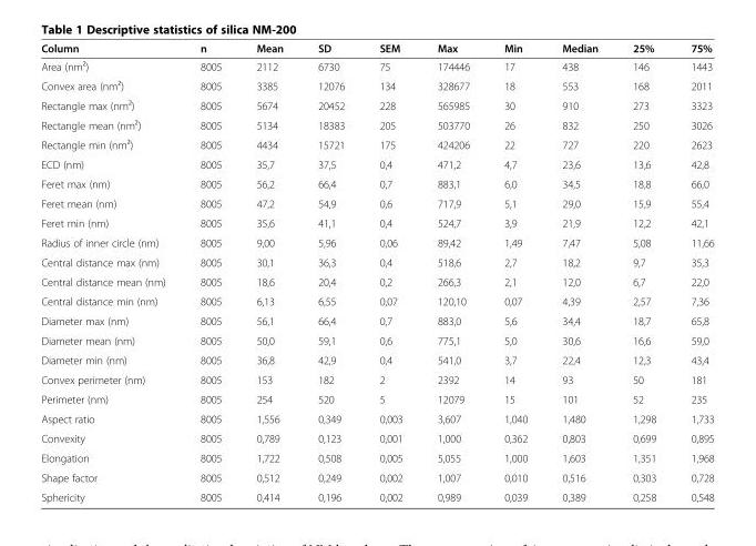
<table><thead><tr><td>Column</td><td>n</td><td>Mean</td><td>SD</td><td>SEM</td><td>Max</td><td>Min</td><td>Median</td><td>25%</td><td>75%</td></tr></thead><tbody><tr><td>Area (nm²)</td><td>8005</td><td>2112</td><td>6730</td><td>75</td><td>174446</td><td>17</td><td>438</td><td>146</td><td>1443</td></tr><tr><td>Convex area (nm²)</td><td>8005</td><td>3385</td><td>12076</td><td>134</td><td>328677</td><td>18</td><td>553</td><td>168</td><td>2011</td></tr><tr><td>Rectangle max (nm²)</td><td>8005</td><td>5674</td><td>20452</td><td>228</td><td>565985</td><td>30</td><td>910</td><td>273</td><td>3323</td></tr><tr><td>Rectangle mean (nm²)</td><td>8005</td><td>5134</td><td>18383</td><td>205</td><td>503770</td><td>26</td><td>832</td><td>250</td><td>3026</td></tr><tr><td>Rectangle min (nm²)</td><td>8005</td><td>4434</td><td>15721</td><td>175</td><td>424206</td><td>22</td><td>727</td><td>220</td><td>2623</td></tr><tr><td>ECD (nm)</td><td>8005</td><td>35,7</td><td>37,5</td><td>0,4</td><td>471,2</td><td>4,7</td><td>23,6</td><td>13,6</td><td>42,8</td></tr><tr><td>Feret max (nm)</td><td>8005</td><td>56,2</td><td>66,4</td><td>0,7</td><td>883,1</td><td>6,0</td><td>34,5</td><td>18,8</td><td>66,0</td></tr><tr><td>Feret mean (nm)</td><td>8005</td><td>47,2</td><td>54,9</td><td>0,6</td><td>717,9</td><td>5,1</td><td>29,0</td><td>15,9</td><td>55,4</td></tr><tr><td>Feret min (nm)</td><td>8005</td><td>35,6</td><td>41,1</td><td>0,4</td><td>524,7</td><td>3,9</td><td>21,9</td><td>12,2</td><td>42,1</td></tr><tr><td>Radius of inner circle (nm)</td><td>8005</td><td>9,00</td><td>5,96</td><td>0,06</td><td>89,42</td><td>1,49</td><td>7,47</td><td>5,08</td><td>11,66</td></tr><tr><td>Central distance max (nm)</td><td>8005</td><td>30,1</td><td>36,3</td><td>0,4</td><td>518,6</td><td>2,7</td><td>18,2</td><td>9,7</td><td>35,3</td></tr><tr><td>Central distance mean (nm)</td><td>8005</td><td>18,6</td><td>20,4</td><td>0,2</td><td>266,3</td><td>2,1</td><td>12,0</td><td>6,7</td><td>22,0</td></tr><tr><td>Central distance min (nm)</td><td>8005</td><td>6,13</td><td>6,55</td><td>0,07</td><td>120,10</td><td>0,07</td><td>4,39</td><td>2,57</td><td>7,36</td></tr><tr><td>Diameter max (nm)</td><td>8005</td><td>56,1</td><td>66,4</td><td>0,7</td><td>883,0</td><td>5,6</td><td>34,4</td><td>18,7</td><td>65,8</td></tr><tr><td>Diameter mean (nm)</td><td>8005</td><td>50,0</td><td>59,1</td><td>0,6</td><td>775,1</td><td>5,0</td><td>30,6</td><td>16,6</td><td>59,0</td></tr><tr><td>Diameter min (nm)</td><td>8005</td><td>36,8</td><td>42,9</td><td>0,4</td><td>541,0</td><td>3,7</td><td>22,4</td><td>12,3</td><td>43,4</td></tr><tr><td>Convex perimeter (nm)</td><td>8005</td><td>153</td><td>182</td><td>2</td><td>2392</td><td>14</td><td>93</td><td>50</td><td>181</td></tr><tr><td>Perimeter (nm)</td><td>8005</td><td>254</td><td>520</td><td>5</td><td>12079</td><td>15</td><td>101</td><td>52</td><td>235</td></tr><tr><td>Aspect ratio</td><td>8005</td><td>1,556</td><td>0,349</td><td>0,003</td><td>3,607</td><td>1,040</td><td>1,480</td><td>1,298</td><td>1,733</td></tr><tr><td>Convexity</td><td>8005</td><td>0,789</td><td>0,123</td><td>0,001</td><td>1,000</td><td>0,362</td><td>0,803</td><td>0,699</td><td>0,895</td></tr><tr><td>Elongation</td><td>8005</td><td>1,722</td><td>0,508</td><td>0,005</td><td>5,055</td><td>1,000</td><td>1,603</td><td>1,351</td><td>1,968</td></tr><tr><td>Shape factor</td><td>8005</td><td>0,512</td><td>0,249</td><td>0,002</td><td>1,007</td><td>0,010</td><td>0,516</td><td>0,303</td><td>0,728</td></tr><tr><td>Sphericity</td><td>8005</td><td>0,414</td><td>0,196</td><td>0,002</td><td>0,989</td><td>0,039</td><td>0,389</td><td>0,258</td><td>0,548</td></tr></tbody></table>